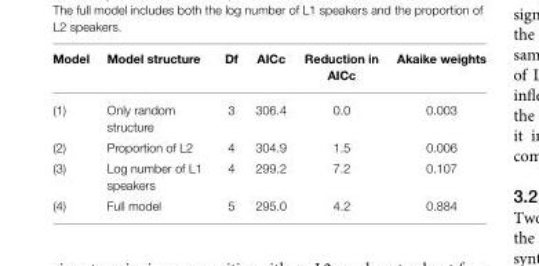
<table><thead><tr><td>Model</td><td>Model structure</td><td>Df</td><td>AICc</td><td>Reduction in AICc</td><td>Akaike weights</td></tr></thead><tbody><tr><td>(1)</td><td>Only random structure</td><td>3</td><td>306.4</td><td>0.0</td><td>0.003</td></tr><tr><td>(2)</td><td>Proportion of L2</td><td>4</td><td>304.9</td><td>1.5</td><td>0.006</td></tr><tr><td>(3)</td><td>Log number of L1 speakers</td><td>4</td><td>299.2</td><td>7.2</td><td>0.107</td></tr><tr><td>(4)</td><td>Full model</td><td>5</td><td>295.0</td><td>4.2</td><td>0.884</td></tr></tbody></table>